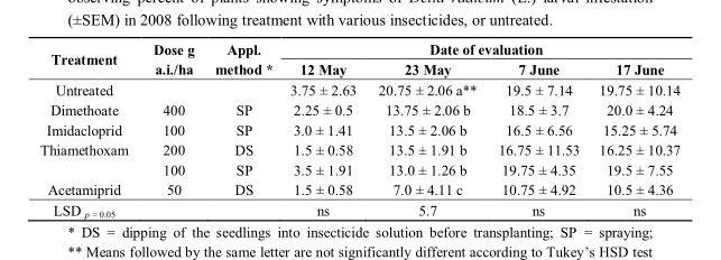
<table><thead><tr><td rowspan="2">Treatment</td><td rowspan="2">Dose g a.i./ha</td><td rowspan="2">Appl. method *</td><td colspan="4">Date of evaluation</td></tr><tr><td>12 May</td><td>23 May</td><td>7 June</td><td>17 June</td></tr></thead><tbody><tr><td>Untreated</td><td></td><td></td><td>3.75 ± 2.63</td><td>20.75 ± 2.06 a**</td><td>19.5 ± 7.14</td><td>19.75 ± 10.14</td></tr><tr><td>Dimethoate</td><td>400</td><td>SP</td><td>2.25 ± 0.5</td><td>13.75 ± 2.06 b</td><td>18.5 ± 3.7</td><td>20.0 ± 4.24</td></tr><tr><td>Imidacloprid</td><td>100</td><td>SP</td><td>3.0 ± 1.41</td><td>13.5 ± 2.06 b</td><td>16.5 ± 6.56</td><td>15.25 ± 5.74</td></tr><tr><td rowspan="2">Thiamethoxam</td><td>200</td><td>DS</td><td>1.5 ± 0.58</td><td>13.5 ± 1.91 b</td><td>16.75 ± 11.53</td><td>16.25 ± 10.37</td></tr><tr><td>100</td><td>SP</td><td>3.5 ± 1.91</td><td>13.0 ± 1.26 b</td><td>19.75 ± 4.35</td><td>19.5 ± 7.55</td></tr><tr><td>Acetamiprid</td><td>50</td><td>DS</td><td>1.5 ± 0.58</td><td>7.0 ± 4.11 c</td><td>10.75 ± 4.92</td><td>10.5 ± 4.36</td></tr><tr><td>LSD <sub>p = 0.05</sub></td><td></td><td></td><td>ns</td><td>5.7</td><td>ns</td><td>ns</td></tr></tbody></table>